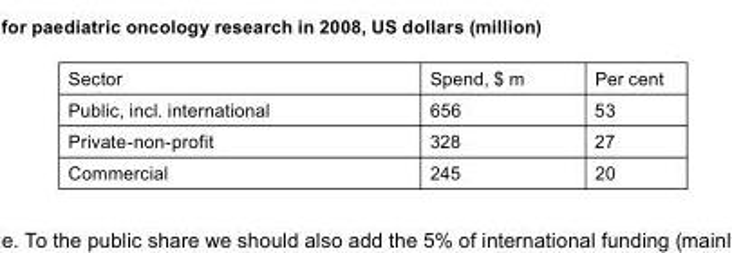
<table><thead><tr><td>Sector</td><td>Spend, $ m</td><td>Per cent</td></tr></thead><tbody><tr><td>Public, incl. international</td><td>656</td><td>53</td></tr><tr><td>Private-non-profit</td><td>328</td><td>27</td></tr><tr><td>Commercial</td><td>245</td><td>20</td></tr></tbody></table>